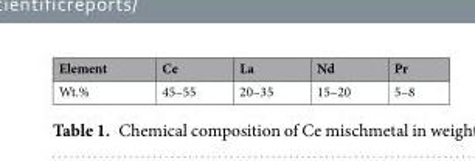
<table><thead><tr><td>Element</td><td>Ce</td><td>La</td><td>Nd</td><td>Pr</td></tr></thead><tbody><tr><td>Wt.%</td><td>45–55</td><td>20–35</td><td>15–20</td><td>5–8</td></tr></tbody></table>